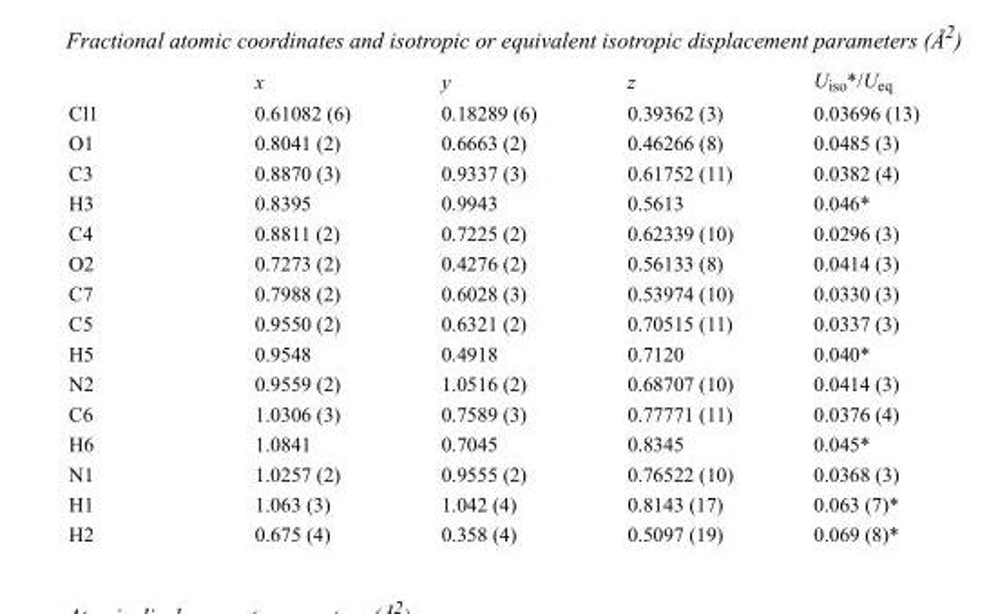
<table><thead><tr><td></td><td>x</td><td>y</td><td>z</td><td>U<sub>iso</sub>*/U<sub>eq</sub></td></tr></thead><tbody><tr><td>Cl1</td><td>0.61082 (6)</td><td>0.18289 (6)</td><td>0.39362 (3)</td><td>0.03696 (13)</td></tr><tr><td>O1</td><td>0.8041 (2)</td><td>0.6663 (2)</td><td>0.46266 (8)</td><td>0.0485 (3)</td></tr><tr><td>C3</td><td>0.8870 (3)</td><td>0.9337 (3)</td><td>0.61752 (11)</td><td>0.0382 (4)</td></tr><tr><td>H3</td><td>0.8395</td><td>0.9943</td><td>0.5613</td><td>0.046*</td></tr><tr><td>C4</td><td>0.8811 (2)</td><td>0.7225 (2)</td><td>0.62339 (10)</td><td>0.0296 (3)</td></tr><tr><td>O2</td><td>0.7273 (2)</td><td>0.4276 (2)</td><td>0.56133 (8)</td><td>0.0414 (3)</td></tr><tr><td>C7</td><td>0.7988 (2)</td><td>0.6028 (3)</td><td>0.53974 (10)</td><td>0.0330 (3)</td></tr><tr><td>C5</td><td>0.9550 (2)</td><td>0.6321 (2)</td><td>0.70515 (11)</td><td>0.0337 (3)</td></tr><tr><td>H5</td><td>0.9548</td><td>0.4918</td><td>0.7120</td><td>0.040*</td></tr><tr><td>N2</td><td>0.9559 (2)</td><td>1.0516 (2)</td><td>0.68707 (10)</td><td>0.0414 (3)</td></tr><tr><td>C6</td><td>1.0306 (3)</td><td>0.7589 (3)</td><td>0.77771 (11)</td><td>0.0376 (4)</td></tr><tr><td>H6</td><td>1.0841</td><td>0.7045</td><td>0.8345</td><td>0.045*</td></tr><tr><td>N1</td><td>1.0257 (2)</td><td>0.9555 (2)</td><td>0.76522 (10)</td><td>0.0368 (3)</td></tr><tr><td>H1</td><td>1.063 (3)</td><td>1.042 (4)</td><td>0.8143 (17)</td><td>0.063 (7)*</td></tr><tr><td>H2</td><td>0.675 (4)</td><td>0.358 (4)</td><td>0.5097 (19)</td><td>0.069 (8)*</td></tr></tbody></table>